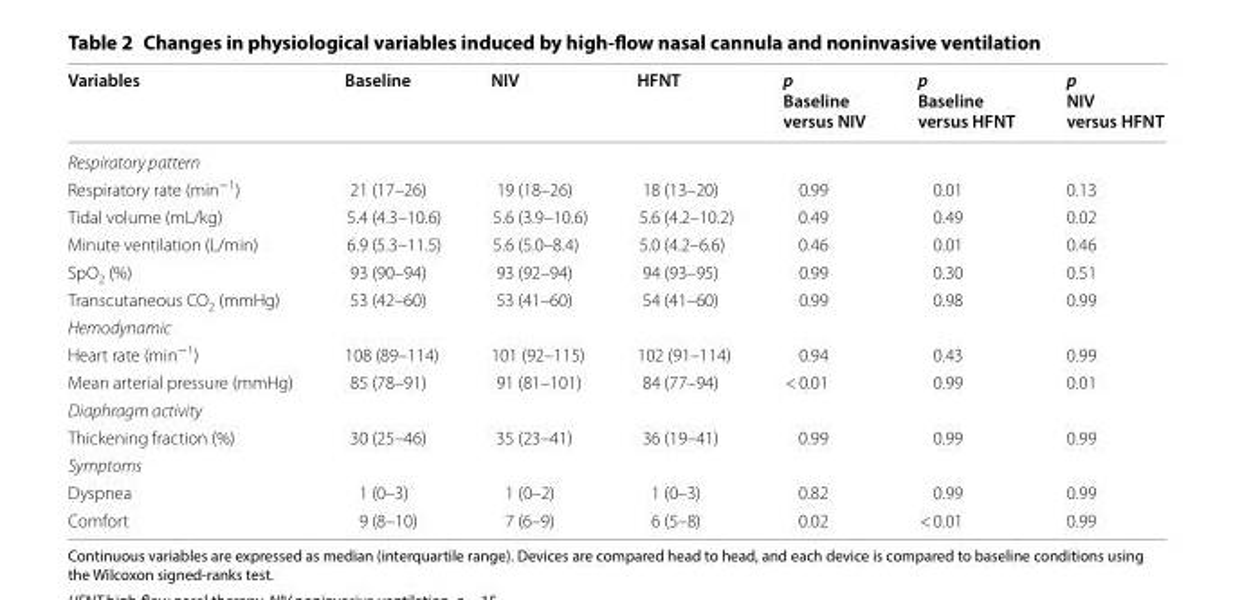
<table><thead><tr><td>Variables</td><td>Baseline</td><td>NIV</td><td>HFNT</td><td>p Baseline versus NIV</td><td>p Baseline versus HFNT</td><td>p NIV versus HFNT</td></tr></thead><tbody><tr><td colspan="7">Respiratory pattern</td></tr><tr><td>Respiratory rate (min<sup>−1</sup>)</td><td>21 (17–26)</td><td>19 (18–26)</td><td>18 (13–20)</td><td>0.99</td><td>0.01</td><td>0.13</td></tr><tr><td>Tidal volume (mL/kg)</td><td>5.4 (4.3–10.6)</td><td>5.6 (3.9–10.6)</td><td>5.6 (4.2–10.2)</td><td>0.49</td><td>0.49</td><td>0.02</td></tr><tr><td>Minute ventilation (L/min)</td><td>6.9 (5.3–11.5)</td><td>5.6 (5.0–8.4)</td><td>5.0 (4.2–6.6)</td><td>0.46</td><td>0.01</td><td>0.46</td></tr><tr><td>SpO<sub>2</sub> (%)</td><td>93 (90–94)</td><td>93 (92–94)</td><td>94 (93–95)</td><td>0.99</td><td>0.30</td><td>0.51</td></tr><tr><td>Transcutaneous CO<sub>2</sub> (mmHg)</td><td>53 (42–60)</td><td>53 (41–60)</td><td>54 (41–60)</td><td>0.99</td><td>0.98</td><td>0.99</td></tr><tr><td colspan="7">Hemodynamic</td></tr><tr><td>Heart rate (min<sup>−1</sup>)</td><td>108 (89–114)</td><td>101 (92–115)</td><td>102 (91–114)</td><td>0.94</td><td>0.43</td><td>0.99</td></tr><tr><td>Mean arterial pressure (mmHg)</td><td>85 (78–91)</td><td>91 (81–101)</td><td>84 (77–94)</td><td>&lt; 0.01</td><td>0.99</td><td>0.01</td></tr><tr><td colspan="7">Diaphragm activity</td></tr><tr><td>Thickening fraction (%)</td><td>30 (25–46)</td><td>35 (23–41)</td><td>36 (19–41)</td><td>0.99</td><td>0.99</td><td>0.99</td></tr><tr><td colspan="7">Symptoms</td></tr><tr><td>Dyspnea</td><td>1 (0–3)</td><td>1 (0–2)</td><td>1 (0–3)</td><td>0.82</td><td>0.99</td><td>0.99</td></tr><tr><td>Comfort</td><td>9 (8–10)</td><td>7 (6–9)</td><td>6 (5–8)</td><td>0.02</td><td>&lt; 0.01</td><td>0.99</td></tr></tbody></table>